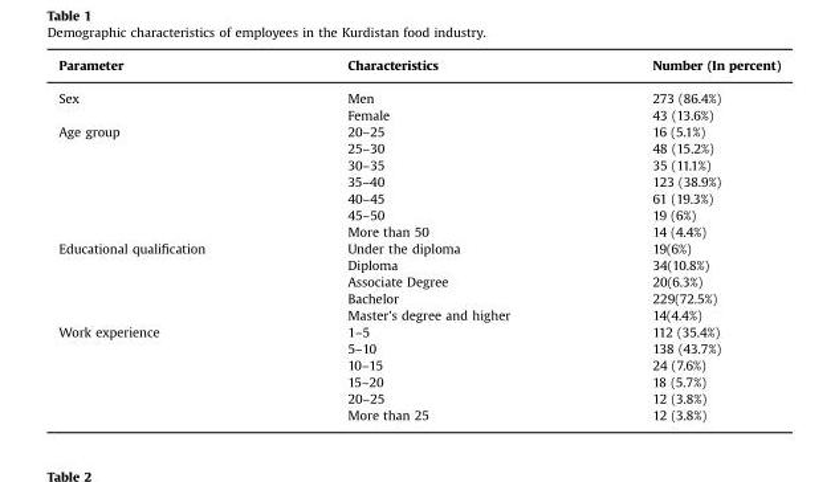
<table><thead><tr><td>Parameter</td><td>Characteristics</td><td>Number (In percent)</td></tr></thead><tbody><tr><td rowspan="2">Sex</td><td>Men</td><td>273 (86.4%)</td></tr><tr><td>Female</td><td>43 (13.6%)</td></tr><tr><td rowspan="7">Age group</td><td>20–25</td><td>16 (5.1%)</td></tr><tr><td>25–30</td><td>48 (15.2%)</td></tr><tr><td>30–35</td><td>35 (11.1%)</td></tr><tr><td>35–40</td><td>123 (38.9%)</td></tr><tr><td>40–45</td><td>61 (19.3%)</td></tr><tr><td>45–50</td><td>19 (6%)</td></tr><tr><td>More than 50</td><td>14 (4.4%)</td></tr><tr><td rowspan="5">Educational qualification</td><td>Under the diploma</td><td>19(6%)</td></tr><tr><td>Diploma</td><td>34(10.8%)</td></tr><tr><td>Associate Degree</td><td>20(6.3%)</td></tr><tr><td>Bachelor</td><td>229(72.5%)</td></tr><tr><td>Master&#x27;s degree and higher</td><td>14(4.4%)</td></tr><tr><td rowspan="6">Work experience</td><td>1–5</td><td>112 (35.4%)</td></tr><tr><td>5–10</td><td>138 (43.7%)</td></tr><tr><td>10–15</td><td>24 (7.6%)</td></tr><tr><td>15–20</td><td>18 (5.7%)</td></tr><tr><td>20–25</td><td>12 (3.8%)</td></tr><tr><td>More than 25</td><td>12 (3.8%)</td></tr></tbody></table>